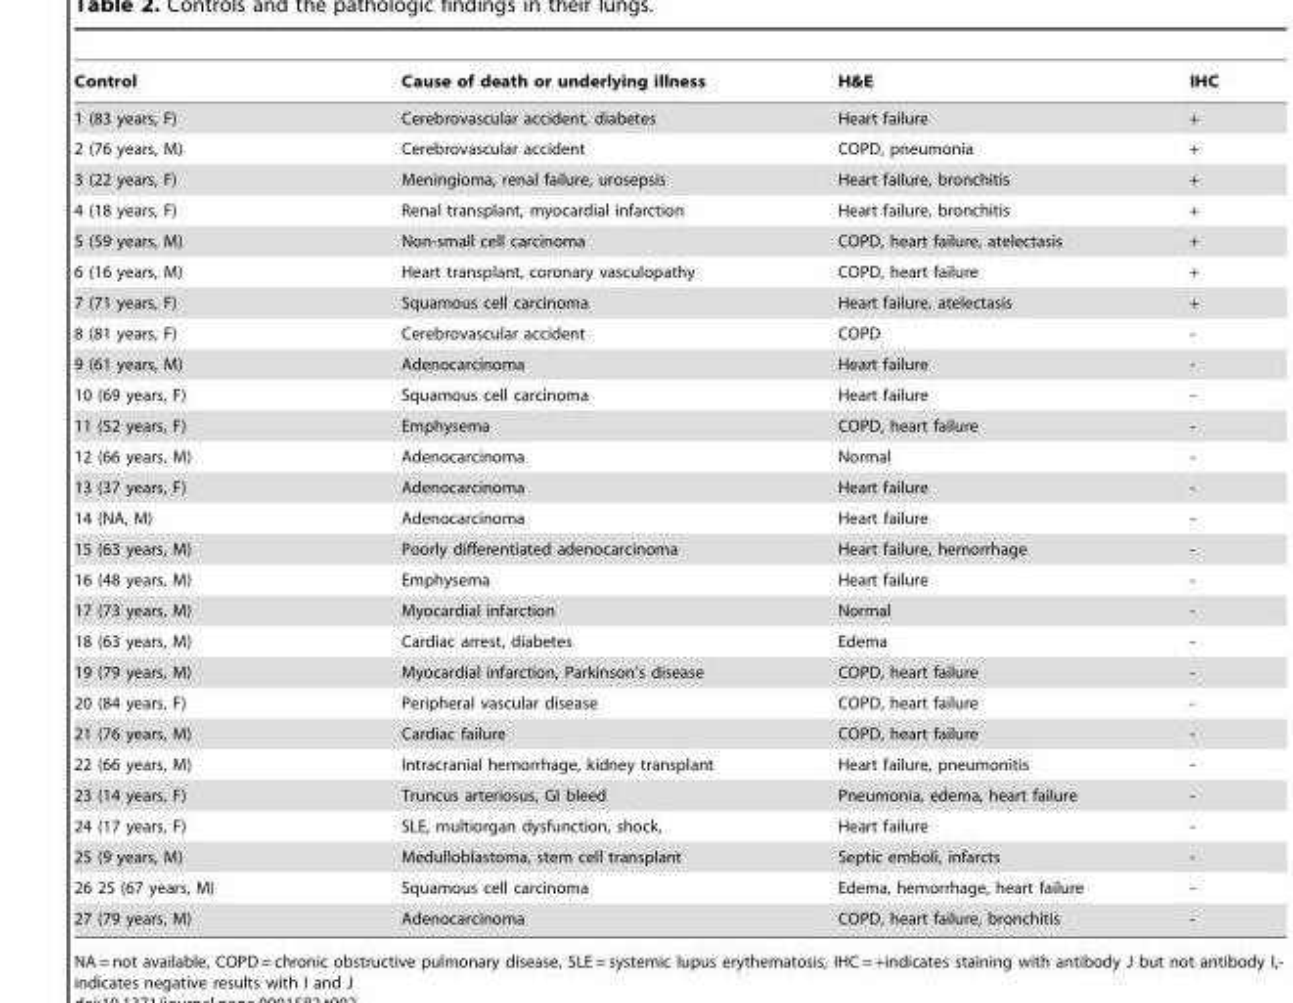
<table><thead><tr><td>Control</td><td>Cause of death or underlying illness</td><td>H&amp;E</td><td>IHC</td></tr></thead><tbody><tr><td>1 (83 years, F)</td><td>Cerebrovascular accident, diabetes</td><td>Heart failure</td><td>+</td></tr><tr><td>2 (76 years, M)</td><td>Cerebrovascular accident</td><td>COPD, pneumonia</td><td>+</td></tr><tr><td>3 (22 years, F)</td><td>Meningioma, renal failure, urosepsis</td><td>Heart failure, bronchitis</td><td>+</td></tr><tr><td>4 (18 years, F)</td><td>Renal transplant, myocardial infarction</td><td>Heart failure, bronchitis</td><td>+</td></tr><tr><td>5 (59 years, M)</td><td>Non-small cell carcinoma</td><td>COPD, heart failure, atelectasis</td><td>+</td></tr><tr><td>6 (16 years, M)</td><td>Heart transplant, coronary vasculopathy</td><td>COPD, heart failure</td><td>+</td></tr><tr><td>7 (71 years, F)</td><td>Squamous cell carcinoma</td><td>Heart failure, atelectasis</td><td>+</td></tr><tr><td>8 (81 years, F)</td><td>Cerebrovascular accident</td><td>COPD</td><td>-</td></tr><tr><td>9 (61 years, M)</td><td>Adenocarcinoma</td><td>Heart failure</td><td>-</td></tr><tr><td>10 (69 years, F)</td><td>Squamous cell carcinoma</td><td>Heart failure</td><td>-</td></tr><tr><td>11 (52 years, F)</td><td>Emphysema</td><td>COPD, heart failure</td><td>-</td></tr><tr><td>12 (66 years, M)</td><td>Adenocarcinoma</td><td>Normal</td><td>-</td></tr><tr><td>13 (37 years, F)</td><td>Adenocarcinoma</td><td>Heart failure</td><td>-</td></tr><tr><td>14 (NA, M)</td><td>Adenocarcinoma</td><td>Heart failure</td><td>-</td></tr><tr><td>15 (63 years, M)</td><td>Poorly differentiated adenocarcinoma</td><td>Heart failure, hemorrhage</td><td>-</td></tr><tr><td>16 (48 years, M)</td><td>Emphysema</td><td>Heart failure</td><td>-</td></tr><tr><td>17 (73 years, M)</td><td>Myocardial infarction</td><td>Normal</td><td>-</td></tr><tr><td>18 (63 years, M)</td><td>Cardiac arrest, diabetes</td><td>Edema</td><td>-</td></tr><tr><td>19 (79 years, M)</td><td>Myocardial infarction, Parkinson’s disease</td><td>COPD, heart failure</td><td>-</td></tr><tr><td>20 (84 years, F)</td><td>Peripheral vascular disease</td><td>COPD, heart failure</td><td>-</td></tr><tr><td>21 (76 years, M)</td><td>Cardiac failure</td><td>COPD, heart failure</td><td>-</td></tr><tr><td>22 (66 years, M)</td><td>Intracranial hemorrhage, kidney transplant</td><td>Heart failure, pneumonitis</td><td>-</td></tr><tr><td>23 (14 years, F)</td><td>Truncus arteriosus, GI bleed</td><td>Pneumonia, edema, heart failure</td><td>-</td></tr><tr><td>24 (17 years, F)</td><td>SLE, multiorgan dysfunction, shock,</td><td>Heart failure</td><td>-</td></tr><tr><td>25 (9 years, M)</td><td>Medulloblastoma, stem cell transplant</td><td>Septic emboli, infarcts</td><td>-</td></tr><tr><td>26 25 (67 years, M)</td><td>Squamous cell carcinoma</td><td>Edema, hemorrhage, heart failure</td><td>-</td></tr><tr><td>27 (79 years, M)</td><td>Adenocarcinoma</td><td>COPD, heart failure, bronchitis</td><td>-</td></tr></tbody></table>